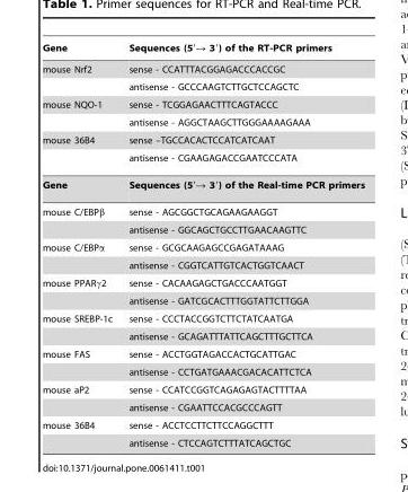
<table><thead><tr><td>Gene</td><td>Sequences (5′→ 3′) of the RT-PCR primers</td></tr></thead><tbody><tr><td rowspan="2">mouse Nrf2</td><td>sense - CCATTTACGGAGACCCACCGC</td></tr><tr><td>antisense - GCCCAAGTCTTGCTCCAGCTC</td></tr><tr><td rowspan="2">mouse NQO-1</td><td>sense - TCGGAGAACTTTCAGTACCC</td></tr><tr><td>antisense - AGGCTAAGCTTGGGAAAAGAAA</td></tr><tr><td rowspan="2">mouse 36B4</td><td>sense –TGCCACACTCCATCATCAAT</td></tr><tr><td>antisense - CGAAGAGACCGAATCCCATA</td></tr><tr><td>Gene</td><td>Sequences (5′→ 3′) of the Real-time PCR primers</td></tr><tr><td rowspan="2">mouse C/EBPβ</td><td>sense - AGCGGCTGCAGAAGAAGGT</td></tr><tr><td>antisense - GGCAGCTGCCTTGAACAAGTTC</td></tr><tr><td rowspan="2">mouse C/EBPα</td><td>sense - GCGCAAGAGCCGAGATAAAG</td></tr><tr><td>antisense - CGGTCATTGTCACTGGTCAACT</td></tr><tr><td rowspan="2">mouse PPARγ2</td><td>sense - CACAAGAGCTGACCCAATGGT</td></tr><tr><td>antisense - GATCGCACTTTGGTATTCTTGGA</td></tr><tr><td rowspan="2">mouse SREBP-1c</td><td>sense - CCCTACCGGTCTTCTATCAATGA</td></tr><tr><td>antisense - GCAGATTTATTCAGCTTTGCTTCA</td></tr><tr><td rowspan="2">mouse FAS</td><td>sense - ACCTGGTAGACCACTGCATTGAC</td></tr><tr><td>antisense - CCTGATGAAACGACACATTCTCA</td></tr><tr><td rowspan="2">mouse aP2</td><td>sense - CCATCCGGTCAGAGAGTACTTTTAA</td></tr><tr><td>antisense - CGAATTCCACGCCCAGTT</td></tr><tr><td rowspan="2">mouse 36B4</td><td>sense - ACCTCCTTCTTCCAGGCTTT</td></tr><tr><td>antisense - CTCCAGTCTTTATCAGCTGC</td></tr></tbody></table>